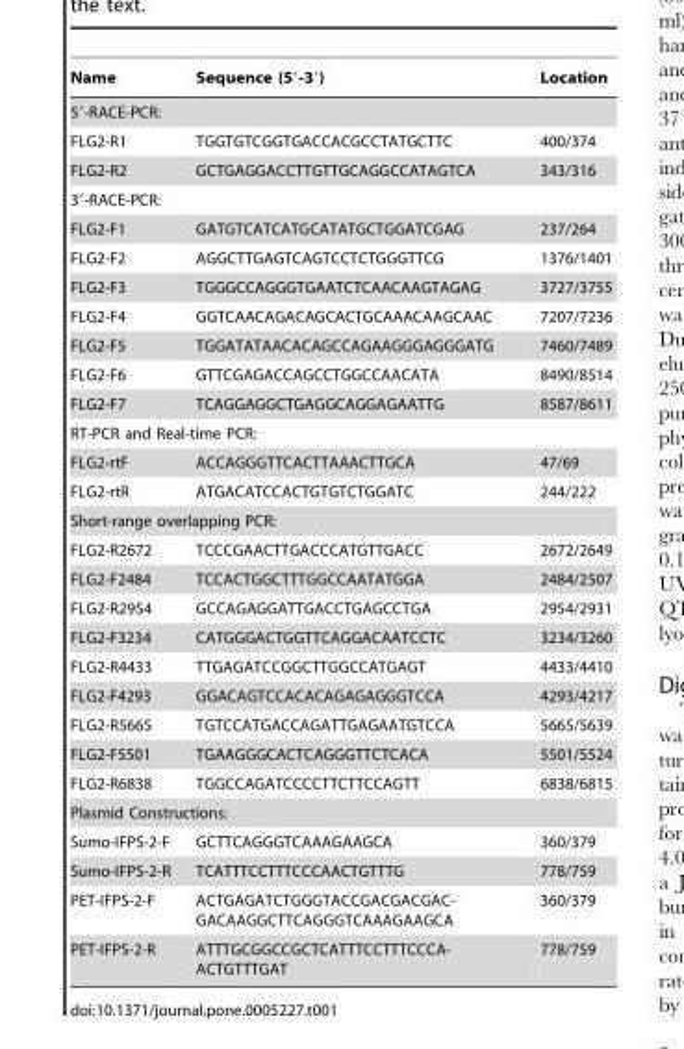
<table><thead><tr><td>Name</td><td>Sequence (5′-3′)</td><td>Location</td></tr></thead><tbody><tr><td colspan="3">5′-RACE-PCR:</td></tr><tr><td>FLG2-R1</td><td>TGGTGTCGGTGACCACGCCTATGCTTC</td><td>400/374</td></tr><tr><td>FLG2-R2</td><td>GCTGAGGACCTTGTTGCAGGCCATAGTCA</td><td>343/316</td></tr><tr><td colspan="3">3′-RACE-PCR:</td></tr><tr><td>FLG2-F1</td><td>GATGTCATCATGCATATGCTGGATCGAG</td><td>237/264</td></tr><tr><td>FLG2-F2</td><td>AGGCTTGAGTCAGTCCTCTGGGTTCG</td><td>1376/1401</td></tr><tr><td>FLG2-F3</td><td>TGGGCCAGGGTGAATCTCAACAAGTAGAG</td><td>3727/3755</td></tr><tr><td>FLG2-F4</td><td>GGTCAACAGACAGCACTGCAAACAAGCAAC</td><td>7207/7236</td></tr><tr><td>FLG2-F5</td><td>TGGATATAACACAGCCAGAAGGGAGGGATG</td><td>7460/7489</td></tr><tr><td>FLG2-F6</td><td>GTTCGAGACCAGCCTGGCCAACATA</td><td>8490/8514</td></tr><tr><td>FLG2-F7</td><td>TCAGGAGGCTGAGGCAGGAGAATTG</td><td>8587/8611</td></tr><tr><td colspan="3">RT-PCR and Real-time PCR:</td></tr><tr><td>FLG2-rtF</td><td>ACCAGGGTTCACTTAAACTTGCA</td><td>47/69</td></tr><tr><td>FLG2-rtR</td><td>ATGACATCCACTGTGTCTGGATC</td><td>244/222</td></tr><tr><td colspan="3">Short-range overlapping PCR:</td></tr><tr><td>FLG2-R2672</td><td>TCCCGAACTTGACCCATGTTGACC</td><td>2672/2649</td></tr><tr><td>FLG2-F2484</td><td>TCCACTGGCTTTGGCCAATATGGA</td><td>2484/2507</td></tr><tr><td>FLG2-R2954</td><td>GCCAGAGGATTGACCTGAGCCTGA</td><td>2954/2931</td></tr><tr><td>FLG2-F3234</td><td>CATGGGACTGGTTCAGGACAATCCTC</td><td>3234/3260</td></tr><tr><td>FLG2-R4433</td><td>TTGAGATCCGGCTTGGCCATGAGT</td><td>4433/4410</td></tr><tr><td>FLG2-F4293</td><td>GGACAGTCCACACAGAGAGGGTCCA</td><td>4293/4217</td></tr><tr><td>FLG2-R5665</td><td>TGTCCATGACCAGATTGAGAATGTCCA</td><td>5665/5639</td></tr><tr><td>FLG2-F5501</td><td>TGAAGGGCACTCAGGGTTCTCACA</td><td>5501/5524</td></tr><tr><td>FLG2-R6838</td><td>TGGCCAGATCCCCTTCTTCCAGTT</td><td>6838/6815</td></tr><tr><td colspan="3">Plasmid Constructions:</td></tr><tr><td>Sumo-IFPS-2-F</td><td>GCTTCAGGGTCAAAGAAGCA</td><td>360/379</td></tr><tr><td>Sumo-IFPS-2-R</td><td>TCATTTCCTTTCCCAACTGTTTG</td><td>778/759</td></tr><tr><td>PET-IFPS-2-F</td><td>ACTGAGATCTGGGTACCGACGACGAC- GACAAGGCTTCAGGGTCAAAGAAGCA</td><td>360/379</td></tr><tr><td>PET-IFPS-2-R</td><td>ATTTGCGGCCGCTCATTTCCTTTCCCA- ACTGTTTGAT</td><td>778/759</td></tr></tbody></table>